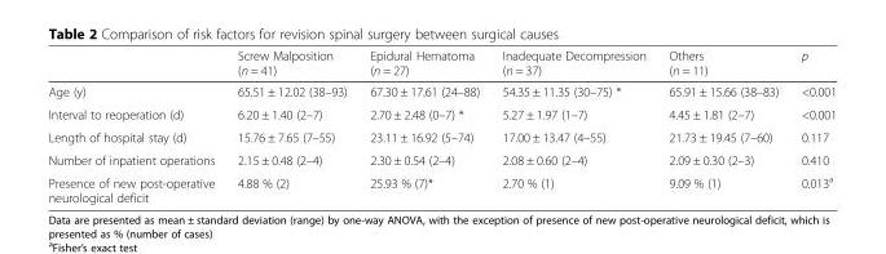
<table><thead><tr><td></td><td>Screw Malposition (n = 41)</td><td>Epidural Hematoma (n = 27)</td><td>Inadequate Decompression (n = 37)</td><td>Others (n = 11)</td><td>p</td></tr></thead><tbody><tr><td>Age (y)</td><td>65.51 ± 12.02 (38–93)</td><td>67.30 ± 17.61 (24–88)</td><td>54.35 ± 11.35 (30–75) *</td><td>65.91 ± 15.66 (38–83)</td><td>&lt;0.001</td></tr><tr><td>Interval to reoperation (d)</td><td>6.20 ± 1.40 (2–7)</td><td>2.70 ± 2.48 (0–7) *</td><td>5.27 ± 1.97 (1–7)</td><td>4.45 ± 1.81 (2–7)</td><td>&lt;0.001</td></tr><tr><td>Length of hospital stay (d)</td><td>15.76 ± 7.65 (7–55)</td><td>23.11 ± 16.92 (5–74)</td><td>17.00 ± 13.47 (4–55)</td><td>21.73 ± 19.45 (7–60)</td><td>0.117</td></tr><tr><td>Number of inpatient operations</td><td>2.15 ± 0.48 (2–4)</td><td>2.30 ± 0.54 (2–4)</td><td>2.08 ± 0.60 (2–4)</td><td>2.09 ± 0.30 (2–3)</td><td>0.410</td></tr><tr><td>Presence of new post-operative neurological deficit</td><td>4.88 % (2)</td><td>25.93 % (7)*</td><td>2.70 % (1)</td><td>9.09 % (1)</td><td>0.013<sup>a</sup></td></tr></tbody></table>